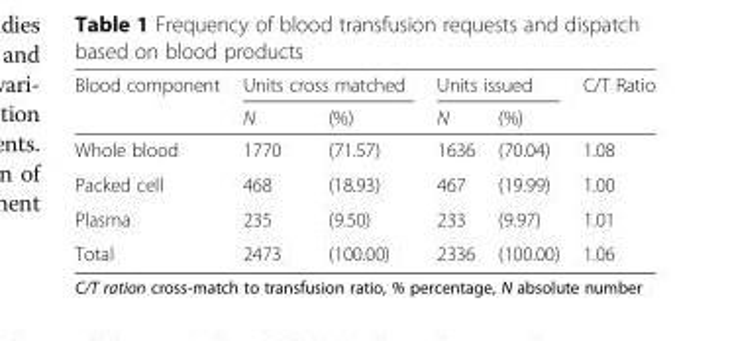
<table><thead><tr><td rowspan="2">Blood component</td><td colspan="2">Units cross matched</td><td colspan="2">Units issued</td><td rowspan="2">C/T Ratio</td></tr><tr><td>N</td><td>(%)</td><td>N</td><td>(%)</td></tr></thead><tbody><tr><td>Whole blood</td><td>1770</td><td>(71.57)</td><td>1636</td><td>(70.04)</td><td>1.08</td></tr><tr><td>Packed cell</td><td>468</td><td>(18.93)</td><td>467</td><td>(19.99)</td><td>1.00</td></tr><tr><td>Plasma</td><td>235</td><td>(9.50)</td><td>233</td><td>(9.97)</td><td>1.01</td></tr><tr><td>Total</td><td>2473</td><td>(100.00)</td><td>2336</td><td>(100.00)</td><td>1.06</td></tr></tbody></table>